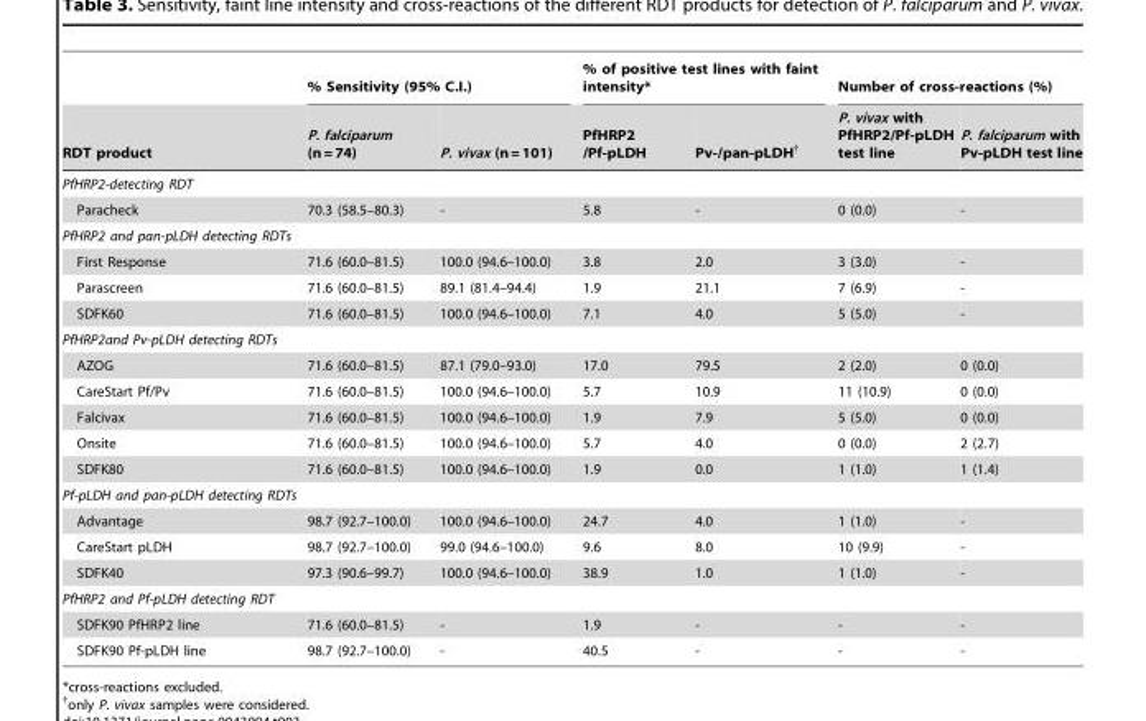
<table><thead><tr><td rowspan="2">RDT product</td><td colspan="2">% Sensitivity (95% C.I.)</td><td colspan="2">% of positive test lines with faint intensity*</td><td colspan="2">Number of cross-reactions (%)</td></tr><tr><td>P. falciparum (n = 74)</td><td>P. vivax (n = 101)</td><td>PfHRP2 /Pf-pLDH</td><td>Pv-/pan-pLDH†</td><td>P. vivax with PfHRP2/Pf-pLDH test line</td><td>P. falciparum with Pv-pLDH test line</td></tr></thead><tbody><tr><td colspan="7">PfHRP2-detecting RDT</td></tr><tr><td>Paracheck</td><td>70.3 (58.5–80.3)</td><td>-</td><td>5.8</td><td>-</td><td>0 (0.0)</td><td>-</td></tr><tr><td colspan="7">PfHRP2 and pan-pLDH detecting RDTs</td></tr><tr><td>First Response</td><td>71.6 (60.0–81.5)</td><td>100.0 (94.6–100.0)</td><td>3.8</td><td>2.0</td><td>3 (3.0)</td><td>-</td></tr><tr><td>Parascreen</td><td>71.6 (60.0–81.5)</td><td>89.1 (81.4–94.4)</td><td>1.9</td><td>21.1</td><td>7 (6.9)</td><td>-</td></tr><tr><td>SDFK60</td><td>71.6 (60.0–81.5)</td><td>100.0 (94.6–100.0)</td><td>7.1</td><td>4.0</td><td>5 (5.0)</td><td>-</td></tr><tr><td colspan="7">PfHRP2and Pv-pLDH detecting RDTs</td></tr><tr><td>AZOG</td><td>71.6 (60.0–81.5)</td><td>87.1 (79.0–93.0)</td><td>17.0</td><td>79.5</td><td>2 (2.0)</td><td>0 (0.0)</td></tr><tr><td>CareStart Pf/Pv</td><td>71.6 (60.0–81.5)</td><td>100.0 (94.6–100.0)</td><td>5.7</td><td>10.9</td><td>11 (10.9)</td><td>0 (0.0)</td></tr><tr><td>Falcivax</td><td>71.6 (60.0–81.5)</td><td>100.0 (94.6–100.0)</td><td>1.9</td><td>7.9</td><td>5 (5.0)</td><td>0 (0.0)</td></tr><tr><td>Onsite</td><td>71.6 (60.0–81.5)</td><td>100.0 (94.6–100.0)</td><td>5.7</td><td>4.0</td><td>0 (0.0)</td><td>2 (2.7)</td></tr><tr><td>SDFK80</td><td>71.6 (60.0–81.5)</td><td>100.0 (94.6–100.0)</td><td>1.9</td><td>0.0</td><td>1 (1.0)</td><td>1 (1.4)</td></tr><tr><td colspan="7">Pf-pLDH and pan-pLDH detecting RDTs</td></tr><tr><td>Advantage</td><td>98.7 (92.7–100.0)</td><td>100.0 (94.6–100.0)</td><td>24.7</td><td>4.0</td><td>1 (1.0)</td><td>-</td></tr><tr><td>CareStart pLDH</td><td>98.7 (92.7–100.0)</td><td>99.0 (94.6–100.0)</td><td>9.6</td><td>8.0</td><td>10 (9.9)</td><td>-</td></tr><tr><td>SDFK40</td><td>97.3 (90.6–99.7)</td><td>100.0 (94.6–100.0)</td><td>38.9</td><td>1.0</td><td>1 (1.0)</td><td>-</td></tr><tr><td colspan="7">PfHRP2 and Pf-pLDH detecting RDT</td></tr><tr><td>SDFK90 PfHRP2 line</td><td>71.6 (60.0–81.5)</td><td>-</td><td>1.9</td><td>-</td><td>-</td><td>-</td></tr><tr><td>SDFK90 Pf-pLDH line</td><td>98.7 (92.7–100.0)</td><td>-</td><td>40.5</td><td>-</td><td>-</td><td>-</td></tr></tbody></table>